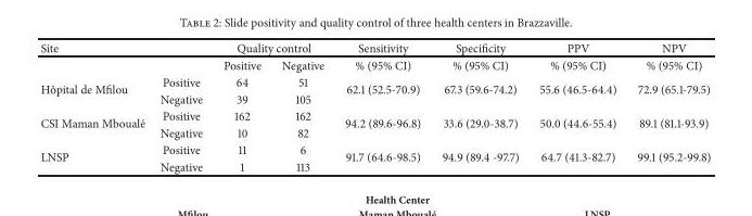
<table><thead><tr><td rowspan="2">Site</td><td rowspan="2"></td><td colspan="2">Quality control</td><td rowspan="2">Sensitivity % (95% CI)</td><td rowspan="2">Specificity % (95% CI)</td><td rowspan="2">PPV % (95% CI)</td><td rowspan="2">NPV % (95% CI)</td></tr><tr><td>Positive</td><td>Negative</td></tr></thead><tbody><tr><td rowspan="2">Hˆopital de Mfilou</td><td>Positive</td><td>64</td><td>51</td><td rowspan="2">62.1 (52.5-70.9)</td><td rowspan="2">67.3 (59.6-74.2)</td><td rowspan="2">55.6 (46.5-64.4)</td><td rowspan="2">72.9 (65.1-79.5)</td></tr><tr><td>Negative</td><td>39</td><td>105</td></tr><tr><td rowspan="2">CSI Maman Mboual´e</td><td>Positive</td><td>162</td><td>162</td><td rowspan="2">94.2 (89.6-96.8)</td><td rowspan="2">33.6 (29.0-38.7)</td><td rowspan="2">50.0 (44.6-55.4)</td><td rowspan="2">89.1 (81.1-93.9)</td></tr><tr><td>Negative</td><td>10</td><td>82</td></tr><tr><td rowspan="2">LNSP</td><td>Positive</td><td>11</td><td>6</td><td rowspan="2">91.7 (64.6-98.5)</td><td rowspan="2">94.9 (89.4 -97.7)</td><td rowspan="2">64.7 (41.3-82.7)</td><td rowspan="2">99.1 (95.2-99.8)</td></tr><tr><td>Negative</td><td>1</td><td>113</td></tr></tbody></table>